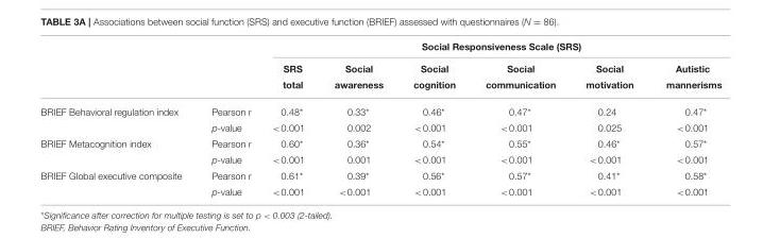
<table><thead><tr><td rowspan="3"></td><td rowspan="3"></td><td colspan="6">Social Responsiveness Scale (SRS)</td></tr><tr><td rowspan="2">SRS total</td><td rowspan="2">Social awareness</td><td rowspan="2">Social cognition</td><td rowspan="2">Social communication</td><td rowspan="2">Social motivation</td><td rowspan="2">Autistic mannerisms</td></tr><tr></tr></thead><tbody><tr><td rowspan="2">BRIEF Behavioral regulation index</td><td>Pearson r</td><td>0.48*</td><td>0.33*</td><td>0.46*</td><td>0.47*</td><td>0.24</td><td>0.47*</td></tr><tr><td>p-value</td><td>&lt;0.001</td><td>0.002</td><td>&lt;0.001</td><td>&lt;0.001</td><td>0.025</td><td>&lt;0.001</td></tr><tr><td rowspan="2">BRIEF Metacognition index</td><td>Pearson r</td><td>0.60*</td><td>0.36*</td><td>0.54*</td><td>0.55*</td><td>0.46*</td><td>0.57*</td></tr><tr><td>p-value</td><td>&lt;0.001</td><td>0.001</td><td>&lt;0.001</td><td>&lt;0.001</td><td>&lt;0.001</td><td>&lt;0.001</td></tr><tr><td rowspan="2">BRIEF Global executive composite</td><td>Pearson r</td><td>0.61*</td><td>0.39*</td><td>0.56*</td><td>0.57*</td><td>0.41*</td><td>0.58*</td></tr><tr><td>p-value</td><td>&lt;0.001</td><td>&lt;0.001</td><td>&lt;0.001</td><td>&lt;0.001</td><td>&lt;0.001</td><td>&lt;0.001</td></tr></tbody></table>